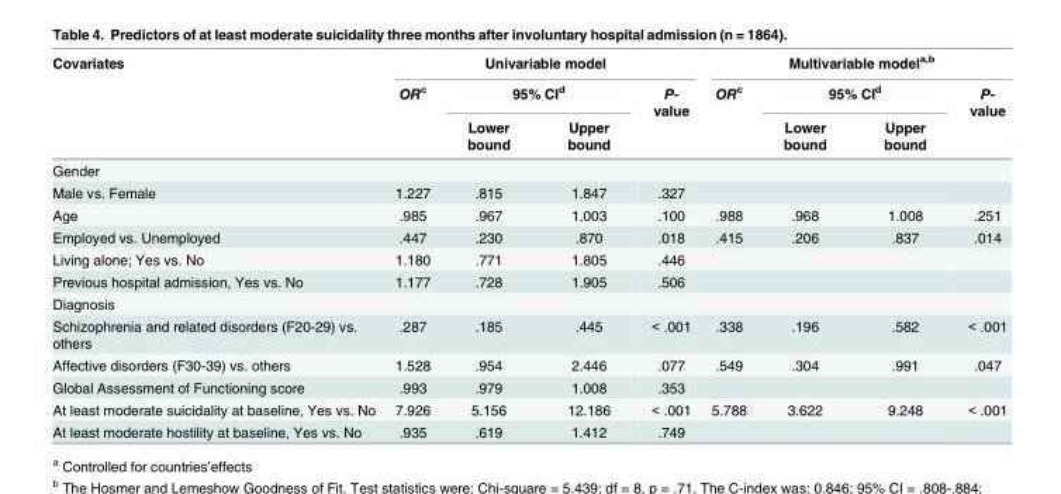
<table><thead><tr><td rowspan="3">Covariates</td><td colspan="4">Univariable model</td><td colspan="4">Multivariable model<sup>a,b</sup></td></tr><tr><td rowspan="2">OR<sup>c</sup></td><td colspan="2">95% CI<sup>d</sup></td><td rowspan="2">P- value</td><td rowspan="2">OR<sup>c</sup></td><td colspan="2">95% CI<sup>d</sup></td><td rowspan="2">P- value</td></tr><tr><td>Lower bound</td><td>Upper bound</td><td>Lower bound</td><td>Upper bound</td></tr></thead><tbody><tr><td colspan="9">Gender</td></tr><tr><td>Male vs. Female</td><td>1.227</td><td>.815</td><td>1.847</td><td>.327</td><td></td><td></td><td></td><td></td></tr><tr><td>Age</td><td>.985</td><td>.967</td><td>1.003</td><td>.100</td><td>.988</td><td>.968</td><td>1.008</td><td>.251</td></tr><tr><td>Employed vs. Unemployed</td><td>.447</td><td>.230</td><td>.870</td><td>.018</td><td>.415</td><td>.206</td><td>.837</td><td>.014</td></tr><tr><td>Living alone; Yes vs. No</td><td>1.180</td><td>.771</td><td>1.805</td><td>.446</td><td></td><td></td><td></td><td></td></tr><tr><td>Previous hospital admission, Yes vs. No</td><td>1.177</td><td>.728</td><td>1.905</td><td>.506</td><td></td><td></td><td></td><td></td></tr><tr><td colspan="9">Diagnosis</td></tr><tr><td>Schizophrenia and related disorders (F20-29) vs. others</td><td>.287</td><td>.185</td><td>.445</td><td>&lt; .001</td><td>.338</td><td>.196</td><td>.582</td><td>&lt; .001</td></tr><tr><td>Affective disorders (F30-39) vs. others</td><td>1.528</td><td>.954</td><td>2.446</td><td>.077</td><td>.549</td><td>.304</td><td>.991</td><td>.047</td></tr><tr><td>Global Assessment of Functioning score</td><td>.993</td><td>.979</td><td>1.008</td><td>.353</td><td></td><td></td><td></td><td></td></tr><tr><td>At least moderate suicidality at baseline, Yes vs. No</td><td>7.926</td><td>5.156</td><td>12.186</td><td>&lt; .001</td><td>5.788</td><td>3.622</td><td>9.248</td><td>&lt; .001</td></tr><tr><td>At least moderate hostility at baseline, Yes vs. No</td><td>.935</td><td>.619</td><td>1.412</td><td>.749</td><td></td><td></td><td></td><td></td></tr></tbody></table>